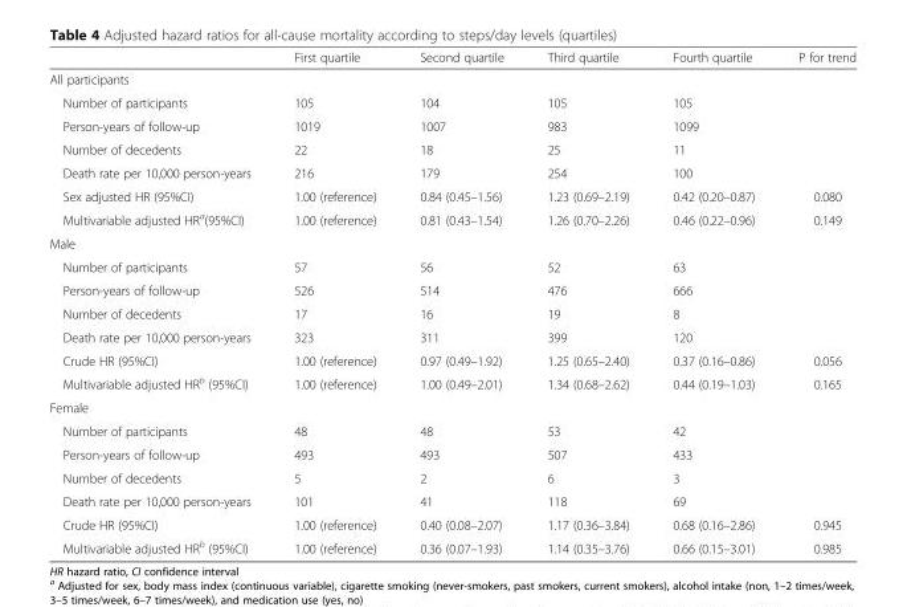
<table><thead><tr><td></td><td>First quartile</td><td>Second quartile</td><td>Third quartile</td><td>Fourth quartile</td><td>P for trend</td></tr></thead><tbody><tr><td colspan="6">All participants</td></tr><tr><td>Number of participants</td><td>105</td><td>104</td><td>105</td><td>105</td><td></td></tr><tr><td>Person-years of follow-up</td><td>1019</td><td>1007</td><td>983</td><td>1099</td><td></td></tr><tr><td>Number of decedents</td><td>22</td><td>18</td><td>25</td><td>11</td><td></td></tr><tr><td>Death rate per 10,000 person-years</td><td>216</td><td>179</td><td>254</td><td>100</td><td></td></tr><tr><td>Sex adjusted HR (95%CI)</td><td>1.00 (reference)</td><td>0.84 (0.45–1.56)</td><td>1.23 (0.69–2.19)</td><td>0.42 (0.20–0.87)</td><td>0.080</td></tr><tr><td>Multivariable adjusted HR<sup>a</sup>(95%CI)</td><td>1.00 (reference)</td><td>0.81 (0.43–1.54)</td><td>1.26 (0.70–2.26)</td><td>0.46 (0.22–0.96)</td><td>0.149</td></tr><tr><td colspan="6">Male</td></tr><tr><td>Number of participants</td><td>57</td><td>56</td><td>52</td><td>63</td><td></td></tr><tr><td>Person-years of follow-up</td><td>526</td><td>514</td><td>476</td><td>666</td><td></td></tr><tr><td>Number of decedents</td><td>17</td><td>16</td><td>19</td><td>8</td><td></td></tr><tr><td>Death rate per 10,000 person-years</td><td>323</td><td>311</td><td>399</td><td>120</td><td></td></tr><tr><td>Crude HR (95%CI)</td><td>1.00 (reference)</td><td>0.97 (0.49–1.92)</td><td>1.25 (0.65–2.40)</td><td>0.37 (0.16–0.86)</td><td>0.056</td></tr><tr><td>Multivariable adjusted HR<sup>b</sup> (95%CI)</td><td>1.00 (reference)</td><td>1.00 (0.49–2.01)</td><td>1.34 (0.68–2.62)</td><td>0.44 (0.19–1.03)</td><td>0.165</td></tr><tr><td colspan="6">Female</td></tr><tr><td>Number of participants</td><td>48</td><td>48</td><td>53</td><td>42</td><td></td></tr><tr><td>Person-years of follow-up</td><td>493</td><td>493</td><td>507</td><td>433</td><td></td></tr><tr><td>Number of decedents</td><td>5</td><td>2</td><td>6</td><td>3</td><td></td></tr><tr><td>Death rate per 10,000 person-years</td><td>101</td><td>41</td><td>118</td><td>69</td><td></td></tr><tr><td>Crude HR (95%CI)</td><td>1.00 (reference)</td><td>0.40 (0.08–2.07)</td><td>1.17 (0.36–3.84)</td><td>0.68 (0.16–2.86)</td><td>0.945</td></tr><tr><td>Multivariable adjusted HR<sup>b</sup> (95%CI)</td><td>1.00 (reference)</td><td>0.36 (0.07–1.93)</td><td>1.14 (0.35–3.76)</td><td>0.66 (0.15–3.01)</td><td>0.985</td></tr></tbody></table>